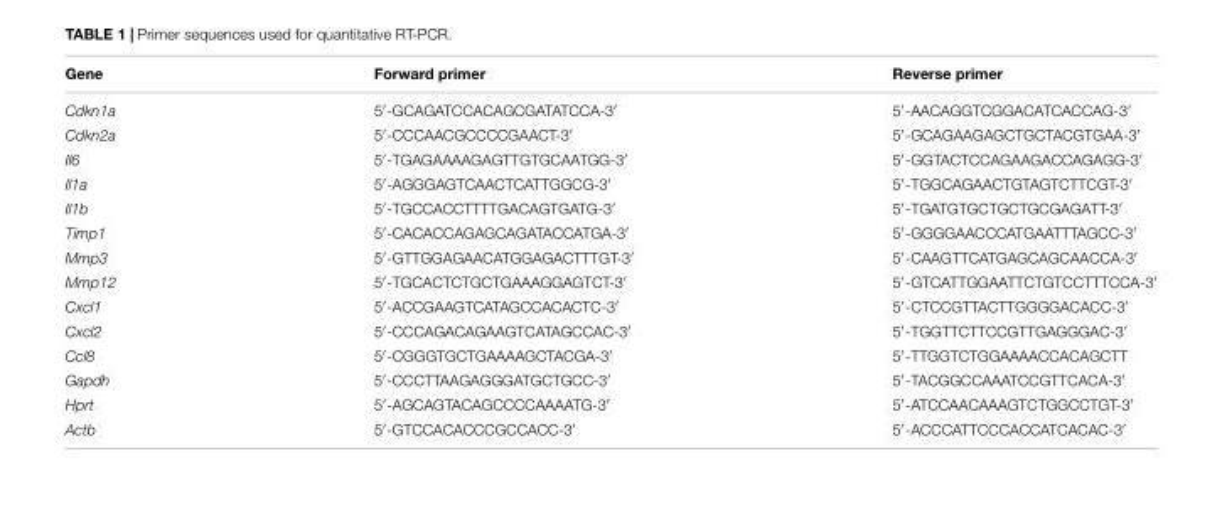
<table><thead><tr><td>Gene</td><td>Forward primer</td><td>Reverse primer</td></tr></thead><tbody><tr><td>Cdkn1a</td><td>5′-GCAGATCCACAGCGATATCCA-3′</td><td>5′-AACAGGTCGGACATCACCAG-3′</td></tr><tr><td>Cdkn2a</td><td>5′-CCCAACGCCCCGAACT-3′</td><td>5′-GCAGAAGAGCTGCTACGTGAA-3′</td></tr><tr><td>Il6</td><td>5′-TGAGAAAAGAGTTGTGCAATGG-3′</td><td>5′-GGTACTCCAGAAGACCAGAGG-3′</td></tr><tr><td>Il1a</td><td>5′-AGGGAGTCAACTCATTGGCG-3′</td><td>5′-TGGCAGAACTGTAGTCTTCGT-3′</td></tr><tr><td>Il1b</td><td>5′-TGCCACCTTTTGACAGTGATG-3′</td><td>5′-TGATGTGCTGCTGCGAGATT-3′</td></tr><tr><td>Timp1</td><td>5′-CACACCAGAGCAGATACCATGA-3′</td><td>5′-GGGGAACCCATGAATTTAGCC-3′</td></tr><tr><td>Mmp3</td><td>5′-GTTGGAGAACATGGAGACTTTGT-3′</td><td>5′-CAAGTTCATGAGCAGCAACCA-3′</td></tr><tr><td>Mmp12</td><td>5′-TGCACTCTGCTGAAAGGAGTCT-3′</td><td>5′-GTCATTGGAATTCTGTCCTTTCCA-3′</td></tr><tr><td>Cxcl1</td><td>5′-ACCGAAGTCATAGCCACACTC-3′</td><td>5′-CTCCGTTACTTGGGGACACC-3′</td></tr><tr><td>Cxcl2</td><td>5′-CCCAGACAGAAGTCATAGCCAC-3′</td><td>5′-TGGTTCTTCCGTTGAGGGAC-3′</td></tr><tr><td>Ccl8</td><td>5′-CGGGTGCTGAAAAGCTACGA-3′</td><td>5′-TTGGTCTGGAAAACCACAGCTT</td></tr><tr><td>Gapdh</td><td>5′-CCCTTAAGAGGGATGCTGCC-3′</td><td>5′-TACGGCCAAATCCGTTCACA-3′</td></tr><tr><td>Hprt</td><td>5′-AGCAGTACAGCCCCAAAATG-3′</td><td>5′-ATCCAACAAAGTCTGGCCTGT-3′</td></tr><tr><td>Actb</td><td>5′-GTCCACACCCGCCACC-3′</td><td>5′-ACCCATTCCCACCATCACAC-3′</td></tr></tbody></table>